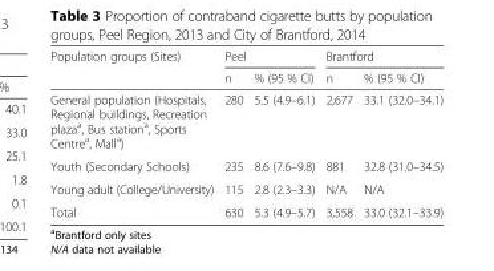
<table><thead><tr><td rowspan="2">Population groups (Sites)</td><td colspan="2">Peel</td><td colspan="2">Brantford</td></tr><tr><td>n</td><td>% (95 % CI)</td><td>n</td><td>% (95 % CI)</td></tr></thead><tbody><tr><td>General population (Hospitals, Regional buildings, Recreation plaza<sup>a</sup>, Bus station<sup>a</sup>, Sports Centre<sup>a</sup>, Mall<sup>a</sup>)</td><td>280</td><td>5.5 (4.9–6.1)</td><td>2,677</td><td>33.1 (32.0–34.1)</td></tr><tr><td>Youth (Secondary Schools)</td><td>235</td><td>8.6 (7.6–9.8)</td><td>881</td><td>32.8 (31.0–34.5)</td></tr><tr><td>Young adult (College/University)</td><td>115</td><td>2.8 (2.3–3.3)</td><td>N/A</td><td>N/A</td></tr><tr><td>Total</td><td>630</td><td>5.3 (4.9–5.7)</td><td>3,558</td><td>33.0 (32.1–33.9)</td></tr></tbody></table>